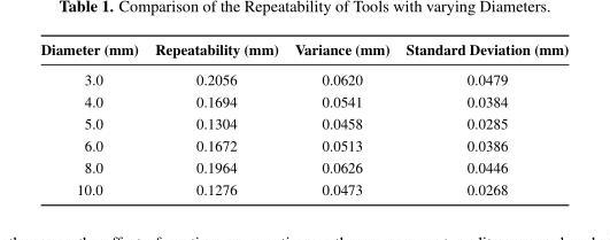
<table><thead><tr><td>Diameter (mm)</td><td>Repeatability (mm)</td><td>Variance (mm)</td><td>Standard Deviation (mm)</td></tr></thead><tbody><tr><td>3.0</td><td>0.2056</td><td>0.0620</td><td>0.0479</td></tr><tr><td>4.0</td><td>0.1694</td><td>0.0541</td><td>0.0384</td></tr><tr><td>5.0</td><td>0.1304</td><td>0.0458</td><td>0.0285</td></tr><tr><td>6.0</td><td>0.1672</td><td>0.0513</td><td>0.0386</td></tr><tr><td>8.0</td><td>0.1964</td><td>0.0626</td><td>0.0446</td></tr><tr><td>10.0</td><td>0.1276</td><td>0.0473</td><td>0.0268</td></tr></tbody></table>